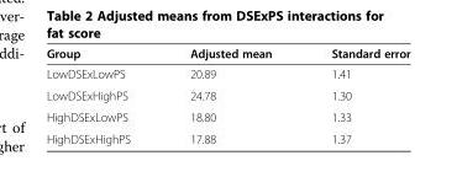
<table><thead><tr><td>Group</td><td>Adjusted mean</td><td>Standard error</td></tr></thead><tbody><tr><td>LowDSExLowPS</td><td>20.89</td><td>1.41</td></tr><tr><td>LowDSExHighPS</td><td>24.78</td><td>1.30</td></tr><tr><td>HighDSExLowPS</td><td>18.80</td><td>1.33</td></tr><tr><td>HighDSExHighPS</td><td>17.88</td><td>1.37</td></tr></tbody></table>